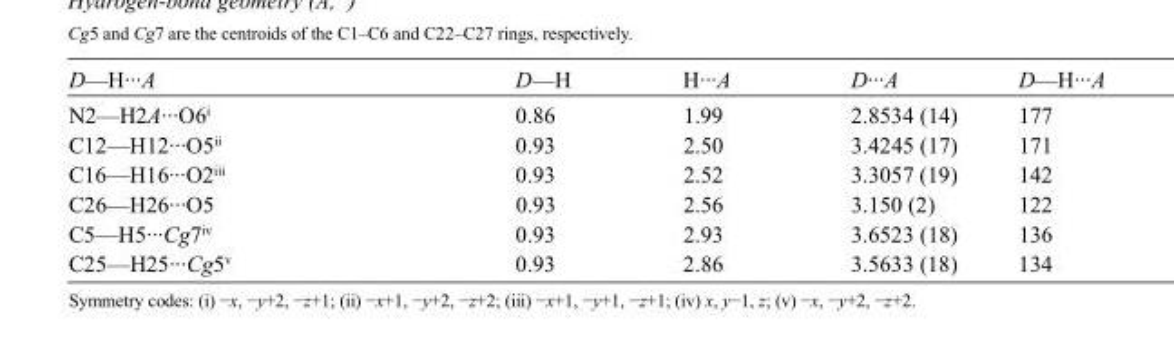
<table><tbody><tr><td>D—H···A</td><td>D—H</td><td>H···A</td><td>D···A</td><td>D—H···A</td></tr><tr><td>N2—H2A···O6<sup>i</sup></td><td>0.86</td><td>1.99</td><td>2.8534 (14)</td><td>177</td></tr><tr><td>C12—H12···O5<sup>ii</sup></td><td>0.93</td><td>2.50</td><td>3.4245 (17)</td><td>171</td></tr><tr><td>C16—H16···O2<sup>iii</sup></td><td>0.93</td><td>2.52</td><td>3.3057 (19)</td><td>142</td></tr><tr><td>C26—H26···O5</td><td>0.93</td><td>2.56</td><td>3.150 (2)</td><td>122</td></tr><tr><td>C5—H5···Cg7<sup>iv</sup></td><td>0.93</td><td>2.93</td><td>3.6523 (18)</td><td>136</td></tr><tr><td>C25—H25···Cg5<sup>v</sup></td><td>0.93</td><td>2.86</td><td>3.5633 (18)</td><td>134</td></tr></tbody></table>